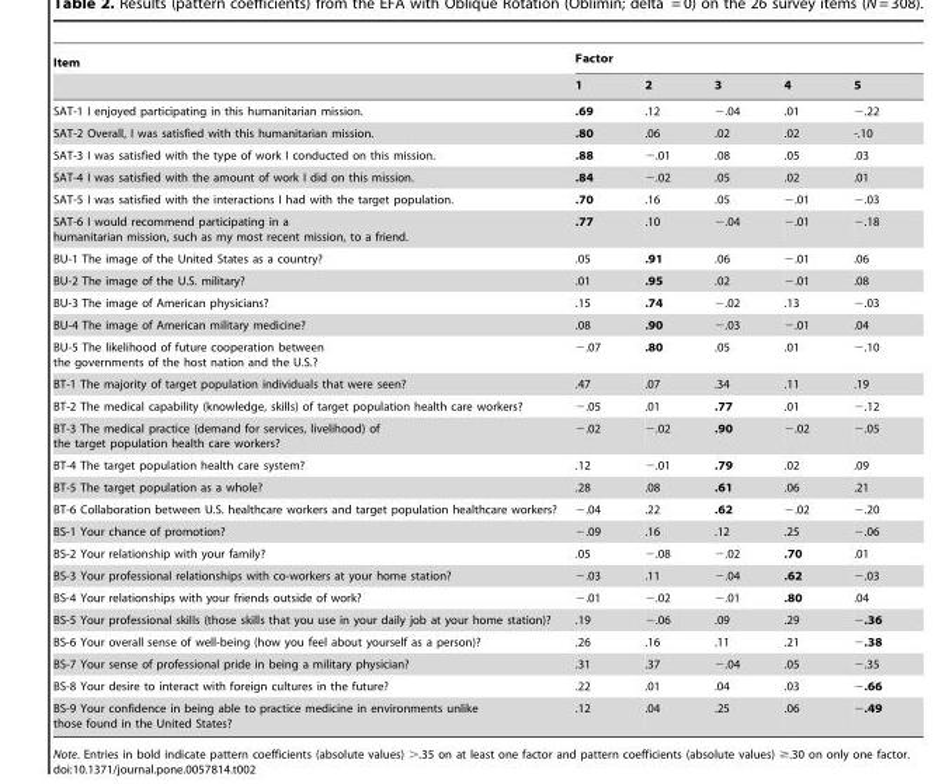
<table><thead><tr><td rowspan="2">Item</td><td colspan="5">Factor</td></tr><tr><td>1</td><td>2</td><td>3</td><td>4</td><td>5</td></tr></thead><tbody><tr><td>SAT-1 I enjoyed participating in this humanitarian mission.</td><td>.69</td><td>.12</td><td>−.04</td><td>.01</td><td>−.22</td></tr><tr><td>SAT-2 Overall, I was satisfied with this humanitarian mission.</td><td>.80</td><td>.06</td><td>.02</td><td>.02</td><td>-.10</td></tr><tr><td>SAT-3 I was satisfied with the type of work I conducted on this mission.</td><td>.88</td><td>−.01</td><td>.08</td><td>.05</td><td>.03</td></tr><tr><td>SAT-4 I was satisfied with the amount of work I did on this mission.</td><td>.84</td><td>−.02</td><td>.05</td><td>.02</td><td>.01</td></tr><tr><td>SAT-5 I was satisfied with the interactions I had with the target population.</td><td>.70</td><td>.16</td><td>.05</td><td>−.01</td><td>−.03</td></tr><tr><td>SAT-6 I would recommend participating in a humanitarian mission, such as my most recent mission, to a friend.</td><td>.77</td><td>.10</td><td>−.04</td><td>−.01</td><td>−.18</td></tr><tr><td>BU-1 The image of the United States as a country?</td><td>.05</td><td>.91</td><td>.06</td><td>−.01</td><td>.06</td></tr><tr><td>BU-2 The image of the U.S. military?</td><td>.01</td><td>.95</td><td>.02</td><td>−.01</td><td>.08</td></tr><tr><td>BU-3 The image of American physicians?</td><td>.15</td><td>.74</td><td>−.02</td><td>.13</td><td>−.03</td></tr><tr><td>BU-4 The image of American military medicine?</td><td>.08</td><td>.90</td><td>−.03</td><td>−.01</td><td>.04</td></tr><tr><td>BU-5 The likelihood of future cooperation between the governments of the host nation and the U.S.?</td><td>−.07</td><td>.80</td><td>.05</td><td>.01</td><td>−.10</td></tr><tr><td>BT-1 The majority of target population individuals that were seen?</td><td>.47</td><td>.07</td><td>.34</td><td>.11</td><td>.19</td></tr><tr><td>BT-2 The medical capability (knowledge, skills) of target population health care workers?</td><td>−.05</td><td>.01</td><td>.77</td><td>.01</td><td>−.12</td></tr><tr><td>BT-3 The medical practice (demand for services, livelihood) of the target population health care workers?</td><td>−.02</td><td>−.02</td><td>.90</td><td>−.02</td><td>−.05</td></tr><tr><td>BT-4 The target population health care system?</td><td>.12</td><td>−.01</td><td>.79</td><td>.02</td><td>.09</td></tr><tr><td>BT-5 The target population as a whole?</td><td>.28</td><td>.08</td><td>.61</td><td>.06</td><td>.21</td></tr><tr><td>BT-6 Collaboration between U.S. healthcare workers and target population healthcare workers?</td><td>−.04</td><td>.22</td><td>.62</td><td>−.02</td><td>−.20</td></tr><tr><td>BS-1 Your chance of promotion?</td><td>−.09</td><td>.16</td><td>.12</td><td>.25</td><td>−.06</td></tr><tr><td>BS-2 Your relationship with your family?</td><td>.05</td><td>−.08</td><td>−.02</td><td>.70</td><td>.01</td></tr><tr><td>BS-3 Your professional relationships with co-workers at your home station?</td><td>−.03</td><td>.11</td><td>−.04</td><td>.62</td><td>−.03</td></tr><tr><td>BS-4 Your relationships with your friends outside of work?</td><td>−.01</td><td>−.02</td><td>−.01</td><td>.80</td><td>.04</td></tr><tr><td>BS-5 Your professional skills (those skills that you use in your daily job at your home station)?</td><td>.19</td><td>−.06</td><td>.09</td><td>.29</td><td>−.36</td></tr><tr><td>BS-6 Your overall sense of well-being (how you feel about yourself as a person)?</td><td>.26</td><td>.16</td><td>.11</td><td>.21</td><td>−.38</td></tr><tr><td>BS-7 Your sense of professional pride in being a military physician?</td><td>.31</td><td>.37</td><td>−.04</td><td>.05</td><td>−.35</td></tr><tr><td>BS-8 Your desire to interact with foreign cultures in the future?</td><td>.22</td><td>.01</td><td>.04</td><td>.03</td><td>−.66</td></tr><tr><td>BS-9 Your confidence in being able to practice medicine in environments unlike those found in the United States?</td><td>.12</td><td>.04</td><td>.25</td><td>.06</td><td>−.49</td></tr></tbody></table>